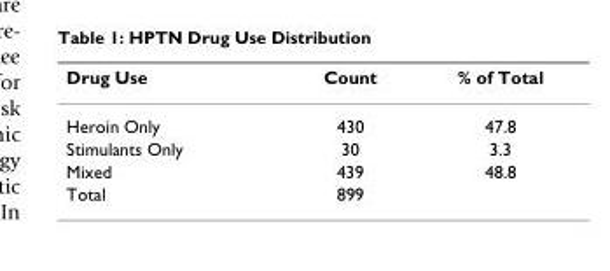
<table><thead><tr><td>Drug Use</td><td>Count</td><td>% of Total</td></tr></thead><tbody><tr><td>Heroin Only</td><td>430</td><td>47.8</td></tr><tr><td>Stimulants Only</td><td>30</td><td>3.3</td></tr><tr><td>Mixed</td><td>439</td><td>48.8</td></tr><tr><td>Total</td><td>899</td><td></td></tr></tbody></table>